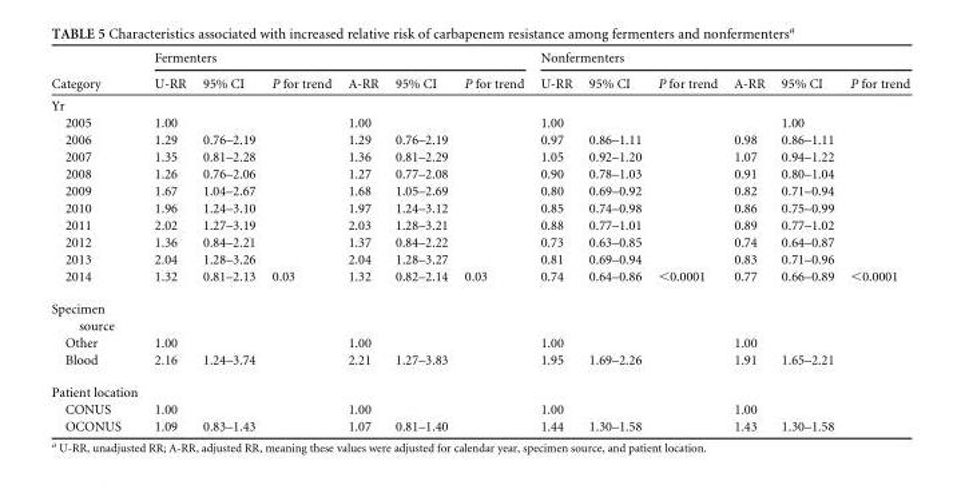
<table><thead><tr><td rowspan="2">Category</td><td colspan="6">Fermenters</td><td colspan="6">Nonfermenters</td></tr><tr><td>U-RR</td><td>95% CI</td><td>P for trend</td><td>A-RR</td><td>95% CI</td><td>P for trend</td><td>U-RR</td><td>95% CI</td><td>P for trend</td><td>A-RR</td><td>95% CI</td><td>P for trend</td></tr></thead><tbody><tr><td colspan="13">Yr</td></tr><tr><td>2005</td><td>1.00</td><td></td><td></td><td>1.00</td><td></td><td></td><td>1.00</td><td></td><td></td><td></td><td>1.00</td><td></td></tr><tr><td>2006</td><td>1.29</td><td>0.76–2.19</td><td></td><td>1.29</td><td>0.76–2.19</td><td></td><td>0.97</td><td>0.86–1.11</td><td></td><td>0.98</td><td>0.86–1.11</td><td></td></tr><tr><td>2007</td><td>1.35</td><td>0.81–2.28</td><td></td><td>1.36</td><td>0.81–2.29</td><td></td><td>1.05</td><td>0.92–1.20</td><td></td><td>1.07</td><td>0.94–1.22</td><td></td></tr><tr><td>2008</td><td>1.26</td><td>0.76–2.06</td><td></td><td>1.27</td><td>0.77–2.08</td><td></td><td>0.90</td><td>0.78–1.03</td><td></td><td>0.91</td><td>0.80–1.04</td><td></td></tr><tr><td>2009</td><td>1.67</td><td>1.04–2.67</td><td></td><td>1.68</td><td>1.05–2.69</td><td></td><td>0.80</td><td>0.69–0.92</td><td></td><td>0.82</td><td>0.71–0.94</td><td></td></tr><tr><td>2010</td><td>1.96</td><td>1.24–3.10</td><td></td><td>1.97</td><td>1.24–3.12</td><td></td><td>0.85</td><td>0.74–0.98</td><td></td><td>0.86</td><td>0.75–0.99</td><td></td></tr><tr><td>2011</td><td>2.02</td><td>1.27–3.19</td><td></td><td>2.03</td><td>1.28–3.21</td><td></td><td>0.88</td><td>0.77–1.01</td><td></td><td>0.89</td><td>0.77–1.02</td><td></td></tr><tr><td>2012</td><td>1.36</td><td>0.84–2.21</td><td></td><td>1.37</td><td>0.84–2.22</td><td></td><td>0.73</td><td>0.63–0.85</td><td></td><td>0.74</td><td>0.64–0.87</td><td></td></tr><tr><td>2013</td><td>2.04</td><td>1.28–3.26</td><td></td><td>2.04</td><td>1.28–3.27</td><td></td><td>0.81</td><td>0.69–0.94</td><td></td><td>0.83</td><td>0.71–0.96</td><td></td></tr><tr><td>2014</td><td>1.32</td><td>0.81–2.13</td><td>0.03</td><td>1.32</td><td>0.82–2.14</td><td>0.03</td><td>0.74</td><td>0.64–0.86</td><td>&lt;0.0001</td><td>0.77</td><td>0.66–0.89</td><td>&lt;0.0001</td></tr><tr><td colspan="13">Specimen source</td></tr><tr><td>Other</td><td>1.00</td><td></td><td></td><td>1.00</td><td></td><td></td><td>1.00</td><td></td><td></td><td>1.00</td><td></td><td></td></tr><tr><td>Blood</td><td>2.16</td><td>1.24–3.74</td><td></td><td>2.21</td><td>1.27–3.83</td><td></td><td>1.95</td><td>1.69–2.26</td><td></td><td>1.91</td><td>1.65–2.21</td><td></td></tr><tr><td colspan="13">Patient location</td></tr><tr><td>CONUS</td><td>1.00</td><td></td><td></td><td>1.00</td><td></td><td></td><td>1.00</td><td></td><td></td><td>1.00</td><td></td><td></td></tr><tr><td>OCONUS</td><td>1.09</td><td>0.83–1.43</td><td></td><td>1.07</td><td>0.81–1.40</td><td></td><td>1.44</td><td>1.30–1.58</td><td></td><td>1.43</td><td>1.30–1.58</td><td></td></tr></tbody></table>